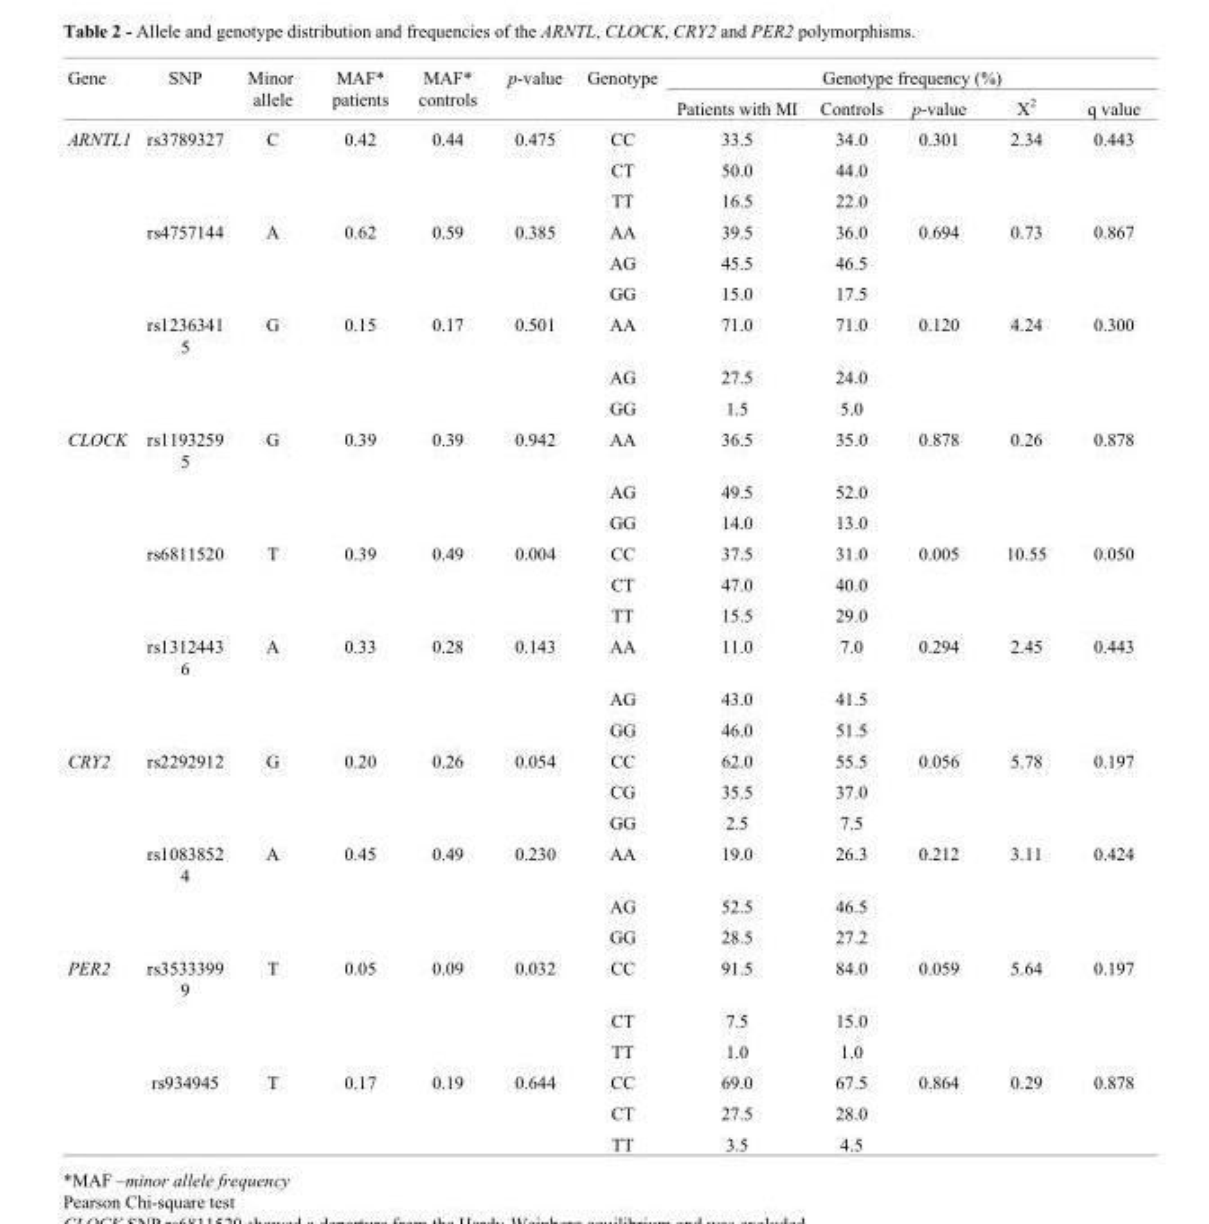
<table><thead><tr><td rowspan="2">Gene</td><td rowspan="2">SNP</td><td rowspan="2">Minor allele</td><td rowspan="2">MAF* patients</td><td rowspan="2">MAF* controls</td><td rowspan="2">p-value</td><td rowspan="2">Genotype</td><td colspan="5">Genotype frequency (%)</td></tr><tr><td>Patients with MI</td><td>Controls</td><td>p-value</td><td>X<sup>2</sup></td><td>q value</td></tr></thead><tbody><tr><td rowspan="9">ARNTL1</td><td>rs3789327</td><td>C</td><td>0.42</td><td>0.44</td><td>0.475</td><td>CC</td><td>33.5</td><td>34.0</td><td>0.301</td><td>2.34</td><td>0.443</td></tr><tr><td></td><td></td><td></td><td></td><td></td><td>CT</td><td>50.0</td><td>44.0</td><td></td><td></td><td></td></tr><tr><td></td><td></td><td></td><td></td><td></td><td>TT</td><td>16.5</td><td>22.0</td><td></td><td></td><td></td></tr><tr><td>rs4757144</td><td>A</td><td>0.62</td><td>0.59</td><td>0.385</td><td>AA</td><td>39.5</td><td>36.0</td><td>0.694</td><td>0.73</td><td>0.867</td></tr><tr><td></td><td></td><td></td><td></td><td></td><td>AG</td><td>45.5</td><td>46.5</td><td></td><td></td><td></td></tr><tr><td></td><td></td><td></td><td></td><td></td><td>GG</td><td>15.0</td><td>17.5</td><td></td><td></td><td></td></tr><tr><td>rs1236341 5</td><td>G</td><td>0.15</td><td>0.17</td><td>0.501</td><td>AA</td><td>71.0</td><td>71.0</td><td>0.120</td><td>4.24</td><td>0.300</td></tr><tr><td></td><td></td><td></td><td></td><td></td><td>AG</td><td>27.5</td><td>24.0</td><td></td><td></td><td></td></tr><tr><td></td><td></td><td></td><td></td><td></td><td>GG</td><td>1.5</td><td>5.0</td><td></td><td></td><td></td></tr><tr><td rowspan="9">CLOCK</td><td>rs1193259 5</td><td>G</td><td>0.39</td><td>0.39</td><td>0.942</td><td>AA</td><td>36.5</td><td>35.0</td><td>0.878</td><td>0.26</td><td>0.878</td></tr><tr><td></td><td></td><td></td><td></td><td></td><td>AG</td><td>49.5</td><td>52.0</td><td></td><td></td><td></td></tr><tr><td></td><td></td><td></td><td></td><td></td><td>GG</td><td>14.0</td><td>13.0</td><td></td><td></td><td></td></tr><tr><td>rs6811520</td><td>T</td><td>0.39</td><td>0.49</td><td>0.004</td><td>CC</td><td>37.5</td><td>31.0</td><td>0.005</td><td>10.55</td><td>0.050</td></tr><tr><td></td><td></td><td></td><td></td><td></td><td>CT</td><td>47.0</td><td>40.0</td><td></td><td></td><td></td></tr><tr><td></td><td></td><td></td><td></td><td></td><td>TT</td><td>15.5</td><td>29.0</td><td></td><td></td><td></td></tr><tr><td>rs1312443 6</td><td>A</td><td>0.33</td><td>0.28</td><td>0.143</td><td>AA</td><td>11.0</td><td>7.0</td><td>0.294</td><td>2.45</td><td>0.443</td></tr><tr><td></td><td></td><td></td><td></td><td></td><td>AG</td><td>43.0</td><td>41.5</td><td></td><td></td><td></td></tr><tr><td></td><td></td><td></td><td></td><td></td><td>GG</td><td>46.0</td><td>51.5</td><td></td><td></td><td></td></tr><tr><td rowspan="6">CRY2</td><td>rs2292912</td><td>G</td><td>0.20</td><td>0.26</td><td>0.054</td><td>CC</td><td>62.0</td><td>55.5</td><td>0.056</td><td>5.78</td><td>0.197</td></tr><tr><td></td><td></td><td></td><td></td><td></td><td>CG</td><td>35.5</td><td>37.0</td><td></td><td></td><td></td></tr><tr><td></td><td></td><td></td><td></td><td></td><td>GG</td><td>2.5</td><td>7.5</td><td></td><td></td><td></td></tr><tr><td>rs1083852 4</td><td>A</td><td>0.45</td><td>0.49</td><td>0.230</td><td>AA</td><td>19.0</td><td>26.3</td><td>0.212</td><td>3.11</td><td>0.424</td></tr><tr><td></td><td></td><td></td><td></td><td></td><td>AG</td><td>52.5</td><td>46.5</td><td></td><td></td><td></td></tr><tr><td></td><td></td><td></td><td></td><td></td><td>GG</td><td>28.5</td><td>27.2</td><td></td><td></td><td></td></tr><tr><td rowspan="6">PER2</td><td>rs3533399 9</td><td>T</td><td>0.05</td><td>0.09</td><td>0.032</td><td>CC</td><td>91.5</td><td>84.0</td><td>0.059</td><td>5.64</td><td>0.197</td></tr><tr><td></td><td></td><td></td><td></td><td></td><td>CT</td><td>7.5</td><td>15.0</td><td></td><td></td><td></td></tr><tr><td></td><td></td><td></td><td></td><td></td><td>TT</td><td>1.0</td><td>1.0</td><td></td><td></td><td></td></tr><tr><td>rs934945</td><td>T</td><td>0.17</td><td>0.19</td><td>0.644</td><td>CC</td><td>69.0</td><td>67.5</td><td>0.864</td><td>0.29</td><td>0.878</td></tr><tr><td></td><td></td><td></td><td></td><td></td><td>CT</td><td>27.5</td><td>28.0</td><td></td><td></td><td></td></tr><tr><td></td><td></td><td></td><td></td><td></td><td>TT</td><td>3.5</td><td>4.5</td><td></td><td></td><td></td></tr></tbody></table>